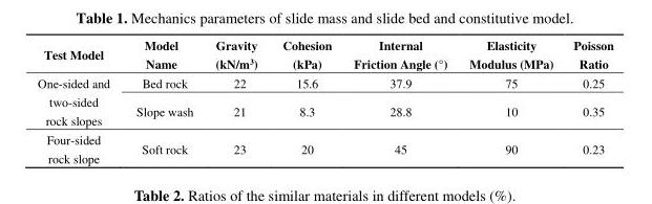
<table><thead><tr><td>Test Model</td><td>Model Name</td><td>Gravity (kN/m<sup>3</sup>)</td><td>Cohesion (kPa)</td><td>Internal Friction Angle (°)</td><td>Elasticity Modulus (MPa)</td><td>Poisson Ratio</td></tr></thead><tbody><tr><td rowspan="2">One-sided and two-sided rock slopes</td><td>Bed rock</td><td>22</td><td>15.6</td><td>37.9</td><td>75</td><td>0.25</td></tr><tr><td>Slope wash</td><td>21</td><td>8.3</td><td>28.8</td><td>10</td><td>0.35</td></tr><tr><td>Four-sided rock slope</td><td>Soft rock</td><td>23</td><td>20</td><td>45</td><td>90</td><td>0.23</td></tr></tbody></table>